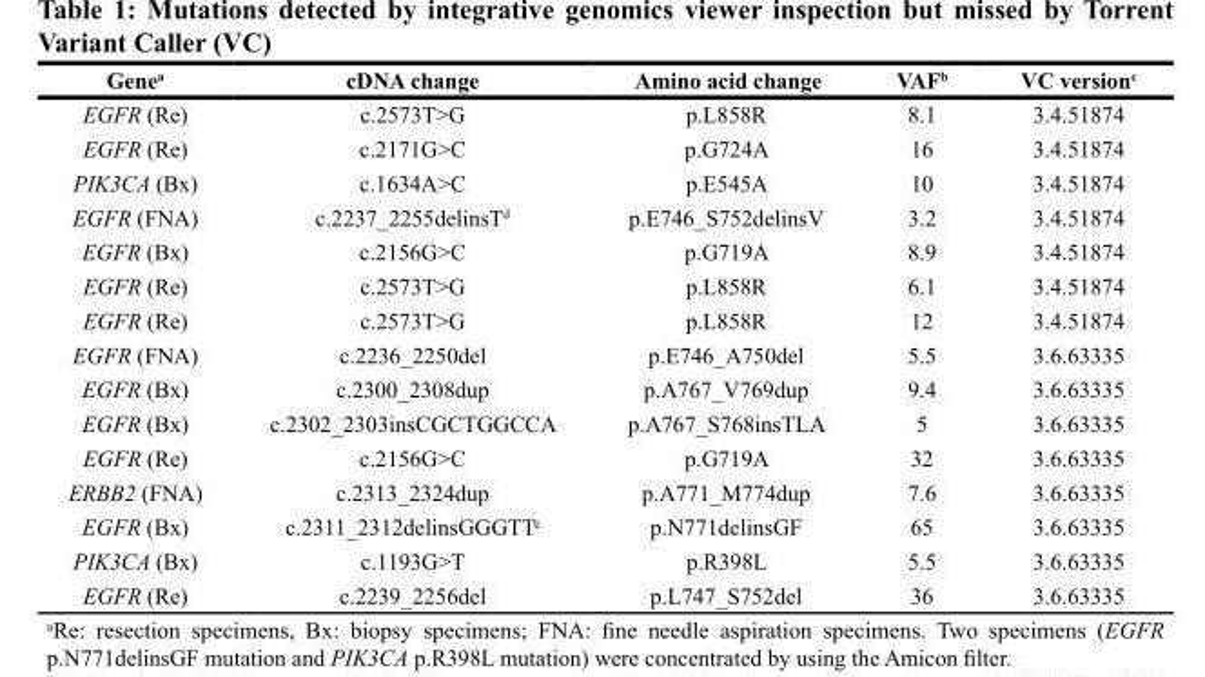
<table><thead><tr><td>Gene<sup>a</sup></td><td>cDNA change</td><td>Amino acid change</td><td>VAF<sup>b</sup></td><td>VC version<sup>c</sup></td></tr></thead><tbody><tr><td>EGFR (Re)</td><td>c.2573T&gt;G</td><td>p.L858R</td><td>8.1</td><td>3.4.51874</td></tr><tr><td>EGFR (Re)</td><td>c.2171G&gt;C</td><td>p.G724A</td><td>16</td><td>3.4.51874</td></tr><tr><td>PIK3CA (Bx)</td><td>c.1634A&gt;C</td><td>p.E545A</td><td>10</td><td>3.4.51874</td></tr><tr><td>EGFR (FNA)</td><td>c.2237_2255delinsT<sup>d</sup></td><td>p.E746_S752delinsV</td><td>3.2</td><td>3.4.51874</td></tr><tr><td>EGFR (Bx)</td><td>c.2156G&gt;C</td><td>p.G719A</td><td>8.9</td><td>3.4.51874</td></tr><tr><td>EGFR (Re)</td><td>c.2573T&gt;G</td><td>p.L858R</td><td>6.1</td><td>3.4.51874</td></tr><tr><td>EGFR (Re)</td><td>c.2573T&gt;G</td><td>p.L858R</td><td>12</td><td>3.4.51874</td></tr><tr><td>EGFR (FNA)</td><td>c.2236_2250del</td><td>p.E746_A750del</td><td>5.5</td><td>3.6.63335</td></tr><tr><td>EGFR (Bx)</td><td>c.2300_2308dup</td><td>p.A767_V769dup</td><td>9.4</td><td>3.6.63335</td></tr><tr><td>EGFR (Bx)</td><td>c.2302_2303insCGCTGGCCA</td><td>p.A767_S768insTLA</td><td>5</td><td>3.6.63335</td></tr><tr><td>EGFR (Re)</td><td>c.2156G&gt;C</td><td>p.G719A</td><td>32</td><td>3.6.63335</td></tr><tr><td>ERBB2 (FNA)</td><td>c.2313_2324dup</td><td>p.A771_M774dup</td><td>7.6</td><td>3.6.63335</td></tr><tr><td>EGFR (Bx)</td><td>c.2311_2312delinsGGGTT<sup>e</sup></td><td>p.N771delinsGF</td><td>65</td><td>3.6.63335</td></tr><tr><td>PIK3CA (Bx)</td><td>c.1193G&gt;T</td><td>p.R398L</td><td>5.5</td><td>3.6.63335</td></tr><tr><td>EGFR (Re)</td><td>c.2239_2256del</td><td>p.L747_S752del</td><td>36</td><td>3.6.63335</td></tr></tbody></table>